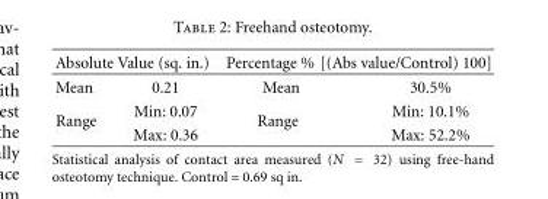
<table><thead><tr><td colspan="2">Absolute Value (sq. in.)</td><td colspan="2">Percentage % [(Abs value/Control) 100]</td></tr><tr><td>Mean</td><td>0.21</td><td>Mean</td><td>30.5%</td></tr></thead><tbody><tr><td rowspan="2">Range</td><td>Min: 0.07</td><td rowspan="2">Range</td><td>Min: 10.1%</td></tr><tr><td>Max: 0.36</td><td>Max: 52.2%</td></tr></tbody></table>